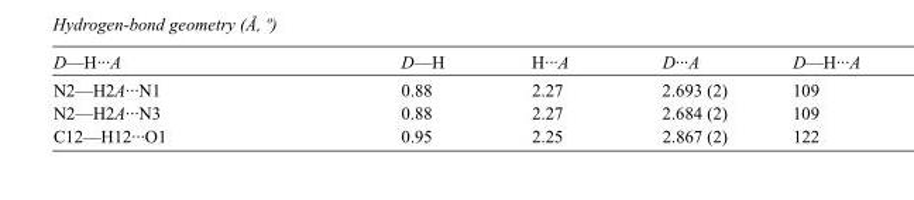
<table><tbody><tr><td>D—H···A</td><td>D—H</td><td>H···A</td><td>D···A</td><td>D—H···A</td></tr><tr><td>N2—H2A···N1</td><td>0.88</td><td>2.27</td><td>2.693 (2)</td><td>109</td></tr><tr><td>N2—H2A···N3</td><td>0.88</td><td>2.27</td><td>2.684 (2)</td><td>109</td></tr><tr><td>C12—H12···O1</td><td>0.95</td><td>2.25</td><td>2.867 (2)</td><td>122</td></tr></tbody></table>